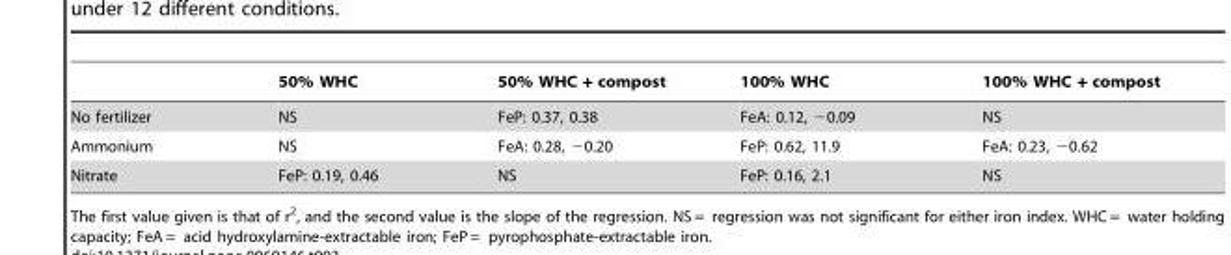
<table><thead><tr><td></td><td>50% WHC</td><td>50% WHC + compost</td><td>100% WHC</td><td>100% WHC + compost</td></tr></thead><tbody><tr><td>No fertilizer</td><td>NS</td><td>FeP: 0.37, 0.38</td><td>FeA: 0.12, −0.09</td><td>NS</td></tr><tr><td>Ammonium</td><td>NS</td><td>FeA: 0.28, −0.20</td><td>FeP: 0.62, 11.9</td><td>FeA: 0.23, −0.62</td></tr><tr><td>Nitrate</td><td>FeP: 0.19, 0.46</td><td>NS</td><td>FeP: 0.16, 2.1</td><td>NS</td></tr></tbody></table>